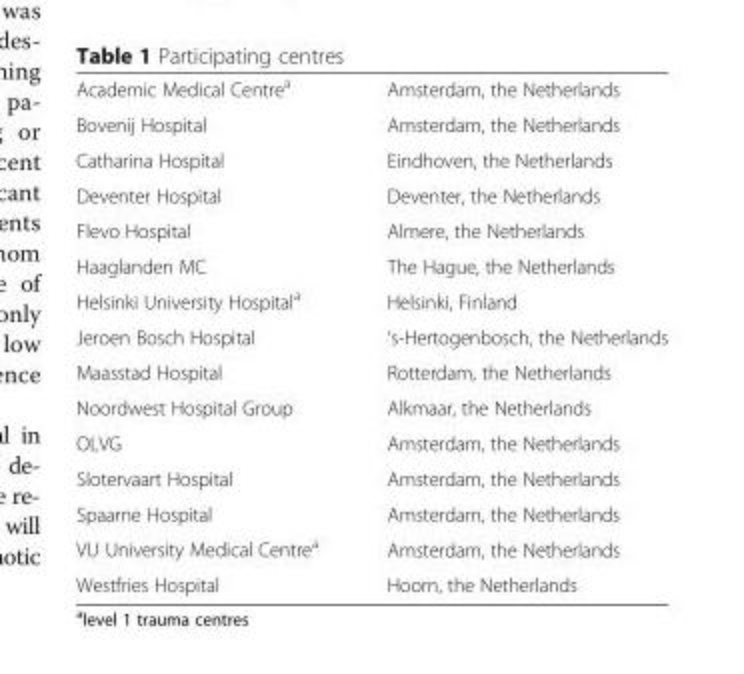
<table><tbody><tr><td>Academic Medical Centre<sup>a</sup></td><td>Amsterdam, the Netherlands</td></tr><tr><td>Bovenij Hospital</td><td>Amsterdam, the Netherlands</td></tr><tr><td>Catharina Hospital</td><td>Eindhoven, the Netherlands</td></tr><tr><td>Deventer Hospital</td><td>Deventer, the Netherlands</td></tr><tr><td>Flevo Hospital</td><td>Almere, the Netherlands</td></tr><tr><td>Haaglanden MC</td><td>The Hague, the Netherlands</td></tr><tr><td>Helsinki University Hospital<sup>a</sup></td><td>Helsinki, Finland</td></tr><tr><td>Jeroen Bosch Hospital</td><td>‘s-Hertogenbosch, the Netherlands</td></tr><tr><td>Maasstad Hospital</td><td>Rotterdam, the Netherlands</td></tr><tr><td>Noordwest Hospital Group</td><td>Alkmaar, the Netherlands</td></tr><tr><td>OLVG</td><td>Amsterdam, the Netherlands</td></tr><tr><td>Slotervaart Hospital</td><td>Amsterdam, the Netherlands</td></tr><tr><td>Spaarne Hospital</td><td>Amsterdam, the Netherlands</td></tr><tr><td>VU University Medical Centre<sup>a</sup></td><td>Amsterdam, the Netherlands</td></tr><tr><td>Westfries Hospital</td><td>Hoorn, the Netherlands</td></tr></tbody></table>